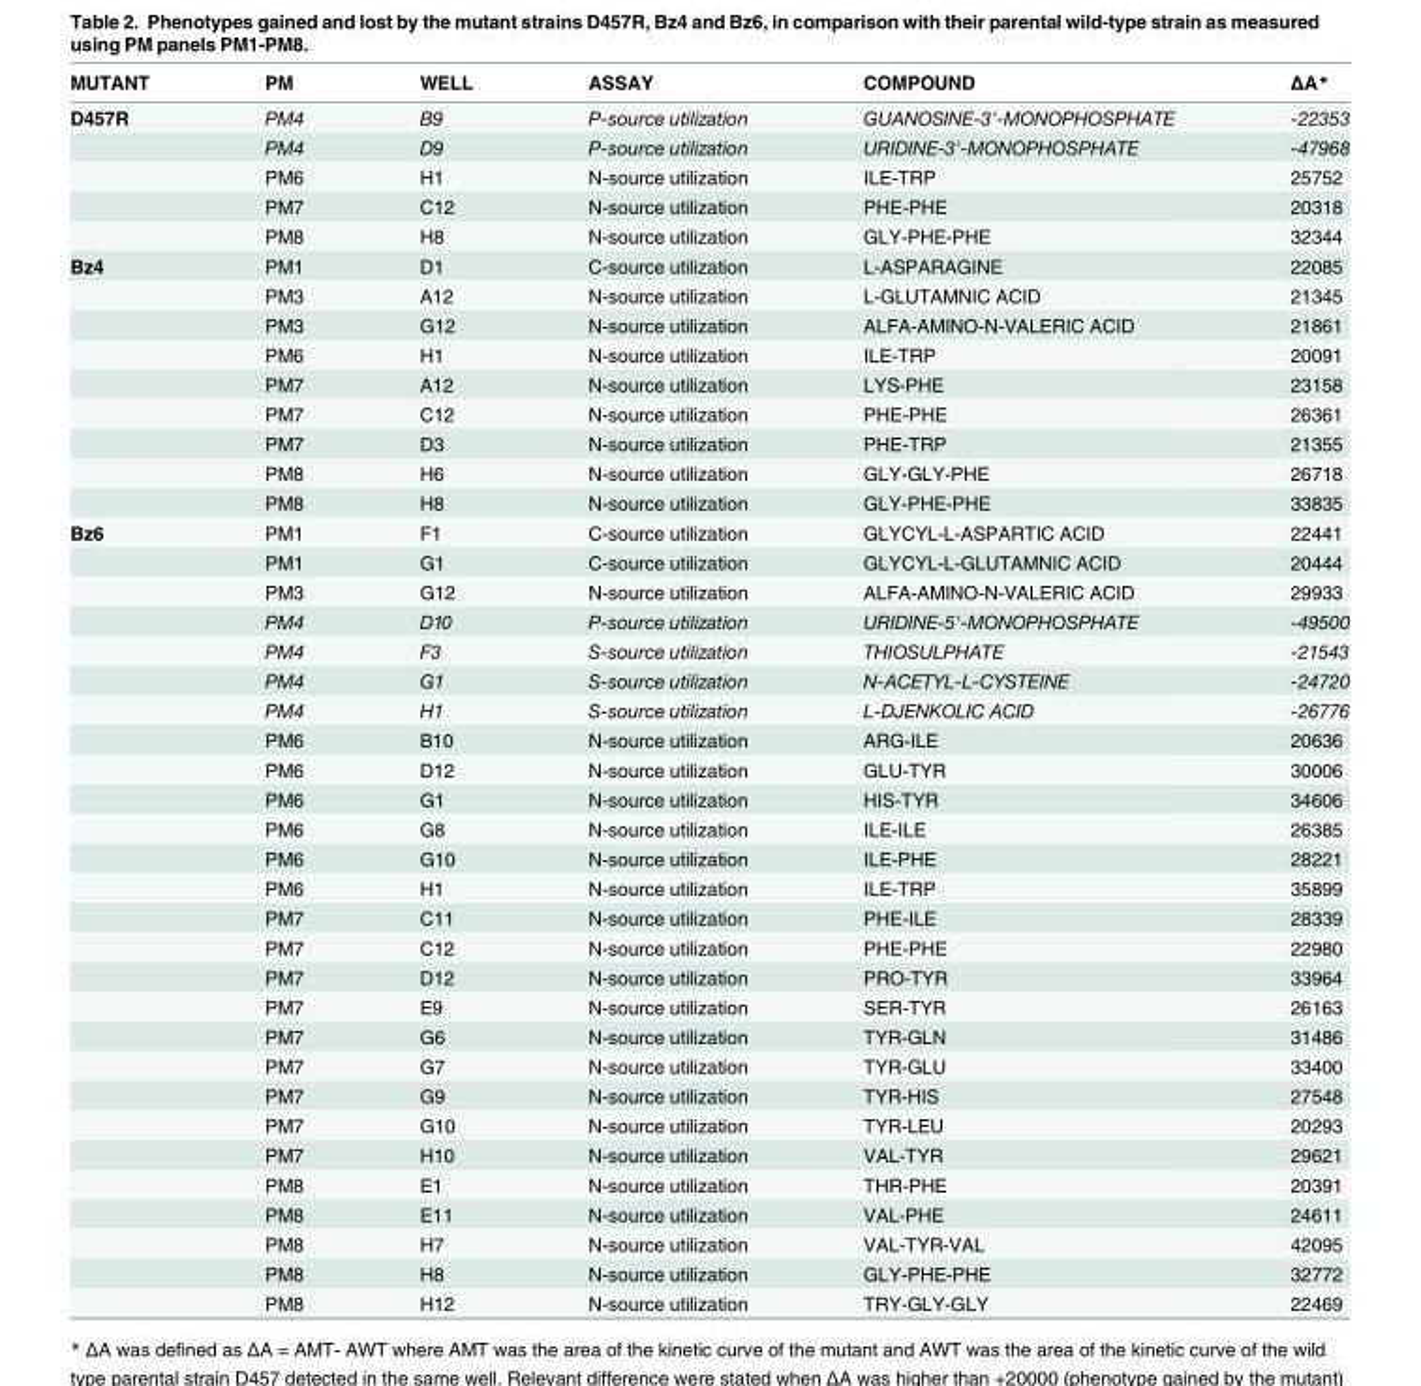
<table><thead><tr><td>MUTANT</td><td>PM</td><td>WELL</td><td>ASSAY</td><td>COMPOUND</td><td>ΔA*</td></tr></thead><tbody><tr><td rowspan="5">D457R</td><td>PM4</td><td>B9</td><td>P-source utilization</td><td>GUANOSINE-3&#x27;-MONOPHOSPHATE</td><td>-22353</td></tr><tr><td>PM4</td><td>D9</td><td>P-source utilization</td><td>URIDINE-3&#x27;-MONOPHOSPHATE</td><td>-47968</td></tr><tr><td>PM6</td><td>H1</td><td>N-source utilization</td><td>ILE-TRP</td><td>25752</td></tr><tr><td>PM7</td><td>C12</td><td>N-source utilization</td><td>PHE-PHE</td><td>20318</td></tr><tr><td>PM8</td><td>H8</td><td>N-source utilization</td><td>GLY-PHE-PHE</td><td>32344</td></tr><tr><td rowspan="9">Bz4</td><td>PM1</td><td>D1</td><td>C-source utilization</td><td>L-ASPARAGINE</td><td>22085</td></tr><tr><td>PM3</td><td>A12</td><td>N-source utilization</td><td>L-GLUTAMNIC ACID</td><td>21345</td></tr><tr><td>PM3</td><td>G12</td><td>N-source utilization</td><td>ALFA-AMINO-N-VALERIC ACID</td><td>21861</td></tr><tr><td>PM6</td><td>H1</td><td>N-source utilization</td><td>ILE-TRP</td><td>20091</td></tr><tr><td>PM7</td><td>A12</td><td>N-source utilization</td><td>LYS-PHE</td><td>23158</td></tr><tr><td>PM7</td><td>C12</td><td>N-source utilization</td><td>PHE-PHE</td><td>26361</td></tr><tr><td>PM7</td><td>D3</td><td>N-source utilization</td><td>PHE-TRP</td><td>21355</td></tr><tr><td>PM8</td><td>H6</td><td>N-source utilization</td><td>GLY-GLY-PHE</td><td>26718</td></tr><tr><td>PM8</td><td>H8</td><td>N-source utilization</td><td>GLY-PHE-PHE</td><td>33835</td></tr><tr><td rowspan="27">Bz6</td><td>PM1</td><td>F1</td><td>C-source utilization</td><td>GLYCYL-L-ASPARTIC ACID</td><td>22441</td></tr><tr><td>PM1</td><td>G1</td><td>C-source utilization</td><td>GLYCYL-L-GLUTAMNIC ACID</td><td>20444</td></tr><tr><td>PM3</td><td>G12</td><td>N-source utilization</td><td>ALFA-AMINO-N-VALERIC ACID</td><td>29933</td></tr><tr><td>PM4</td><td>D10</td><td>P-source utilization</td><td>URIDINE-5&#x27;-MONOPHOSPHATE</td><td>-49500</td></tr><tr><td>PM4</td><td>F3</td><td>S-source utilization</td><td>THIOSULPHATE</td><td>-21543</td></tr><tr><td>PM4</td><td>G1</td><td>S-source utilization</td><td>N-ACETYL-L-CYSTEINE</td><td>-24720</td></tr><tr><td>PM4</td><td>H1</td><td>S-source utilization</td><td>L-DJENKOLIC ACID</td><td>-26776</td></tr><tr><td>PM6</td><td>B10</td><td>N-source utilization</td><td>ARG-ILE</td><td>20636</td></tr><tr><td>PM6</td><td>D12</td><td>N-source utilization</td><td>GLU-TYR</td><td>30006</td></tr><tr><td>PM6</td><td>G1</td><td>N-source utilization</td><td>HIS-TYR</td><td>34606</td></tr><tr><td>PM6</td><td>G8</td><td>N-source utilization</td><td>ILE-ILE</td><td>26385</td></tr><tr><td>PM6</td><td>G10</td><td>N-source utilization</td><td>ILE-PHE</td><td>28221</td></tr><tr><td>PM6</td><td>H1</td><td>N-source utilization</td><td>ILE-TRP</td><td>35899</td></tr><tr><td>PM7</td><td>C11</td><td>N-source utilization</td><td>PHE-ILE</td><td>28339</td></tr><tr><td>PM7</td><td>C12</td><td>N-source utilization</td><td>PHE-PHE</td><td>22980</td></tr><tr><td>PM7</td><td>D12</td><td>N-source utilization</td><td>PRO-TYR</td><td>33964</td></tr><tr><td>PM7</td><td>E9</td><td>N-source utilization</td><td>SER-TYR</td><td>26163</td></tr><tr><td>PM7</td><td>G6</td><td>N-source utilization</td><td>TYR-GLN</td><td>31486</td></tr><tr><td>PM7</td><td>G7</td><td>N-source utilization</td><td>TYR-GLU</td><td>33400</td></tr><tr><td>PM7</td><td>G9</td><td>N-source utilization</td><td>TYR-HIS</td><td>27548</td></tr><tr><td>PM7</td><td>G10</td><td>N-source utilization</td><td>TYR-LEU</td><td>20293</td></tr><tr><td>PM7</td><td>H10</td><td>N-source utilization</td><td>VAL-TYR</td><td>29621</td></tr><tr><td>PM8</td><td>E1</td><td>N-source utilization</td><td>THR-PHE</td><td>20391</td></tr><tr><td>PM8</td><td>E11</td><td>N-source utilization</td><td>VAL-PHE</td><td>24611</td></tr><tr><td>PM8</td><td>H7</td><td>N-source utilization</td><td>VAL-TYR-VAL</td><td>42095</td></tr><tr><td>PM8</td><td>H8</td><td>N-source utilization</td><td>GLY-PHE-PHE</td><td>32772</td></tr><tr><td>PM8</td><td>H12</td><td>N-source utilization</td><td>TRY-GLY-GLY</td><td>22469</td></tr></tbody></table>